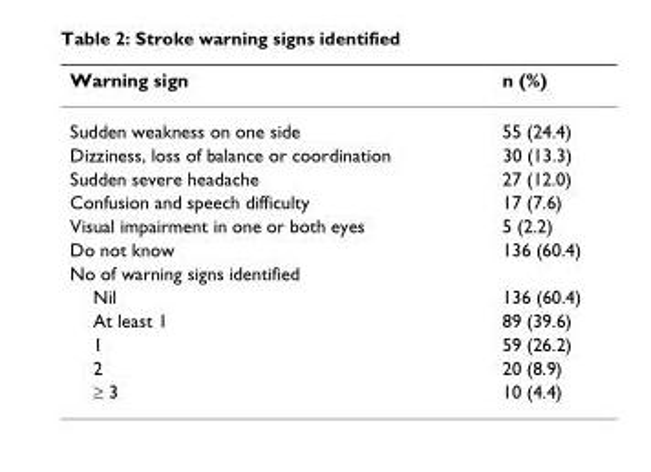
<table><thead><tr><td>Warning sign</td><td>n (%)</td></tr></thead><tbody><tr><td>Sudden weakness on one side</td><td>55 (24.4)</td></tr><tr><td>Dizziness, loss of balance or coordination</td><td>30 (13.3)</td></tr><tr><td>Sudden severe headache</td><td>27 (12.0)</td></tr><tr><td>Confusion and speech difficulty</td><td>17 (7.6)</td></tr><tr><td>Visual impairment in one or both eyes</td><td>5 (2.2)</td></tr><tr><td>Do not know</td><td>136 (60.4)</td></tr><tr><td colspan="2">No of warning signs identified</td></tr><tr><td>Nil</td><td>136 (60.4)</td></tr><tr><td>At least 1</td><td>89 (39.6)</td></tr><tr><td>1</td><td>59 (26.2)</td></tr><tr><td>2</td><td>20 (8.9)</td></tr><tr><td>≥ 3</td><td>10 (4.4)</td></tr></tbody></table>